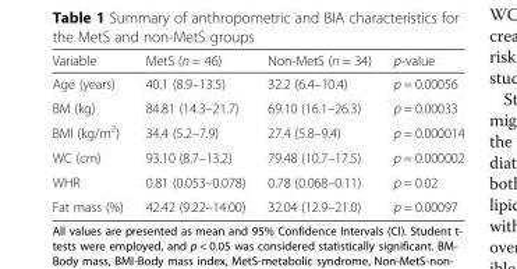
<table><thead><tr><td>Variable</td><td>MetS (n = 46)</td><td>Non-MetS (n = 34)</td><td>p-value</td></tr></thead><tbody><tr><td>Age (years)</td><td>40.1 (8.9–13.5)</td><td>32.2 (6.4–10.4)</td><td>p = 0.00056</td></tr><tr><td>BM (kg)</td><td>84.81 (14.3–21.7)</td><td>69.10 (16.1–26.3)</td><td>p = 0.00033</td></tr><tr><td>BMI (kg/m<sup>2</sup>)</td><td>34.4 (5.2–7.9)</td><td>27.4 (5.8–9.4)</td><td>p = 0.000014</td></tr><tr><td>WC (cm)</td><td>93.10 (8.7–13.2)</td><td>79.48 (10.7–17.5)</td><td>p = 0.000002</td></tr><tr><td>WHR</td><td>0.81 (0.053–0.078)</td><td>0.78 (0.068–0.11)</td><td>p = 0.02</td></tr><tr><td>Fat mass (%)</td><td>42.42 (9.22–14.00)</td><td>32.04 (12.9–21.0)</td><td>p = 0.00097</td></tr></tbody></table>